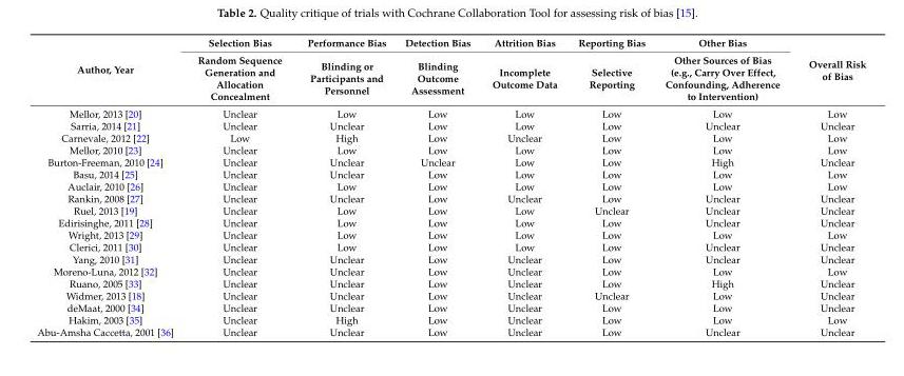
<table><thead><tr><td rowspan="2">Author, Year</td><td rowspan="2">Selection Bias Random Sequence Generation and Allocation Concealment</td><td rowspan="2">Performance Bias Blinding or Participants and Personnel</td><td rowspan="2">Detection Bias Blinding Outcome Assessment</td><td rowspan="2">Attrition Bias Incomplete Outcome Data</td><td rowspan="2">Reporting Bias Selective Reporting</td><td rowspan="2">Other Bias Other Sources of Bias (e.g., Carry Over Effect, Confounding, Adherence to Intervention)</td><td rowspan="2">Overall Risk of Bias</td></tr><tr></tr></thead><tbody><tr><td>Mellor, 2013 [20]</td><td>Unclear</td><td>Low</td><td>Low</td><td>Low</td><td>Low</td><td>Low</td><td>Low</td></tr><tr><td>Sarria, 2014 [21]</td><td>Unclear</td><td>Unclear</td><td>Low</td><td>Low</td><td>Low</td><td>Unclear</td><td>Unclear</td></tr><tr><td>Carnevale, 2012 [22]</td><td>Low</td><td>High</td><td>Low</td><td>Unclear</td><td>Low</td><td>Low</td><td>Low</td></tr><tr><td>Mellor, 2010 [23]</td><td>Unclear</td><td>Low</td><td>Low</td><td>Low</td><td>Low</td><td>Low</td><td>Low</td></tr><tr><td>Burton-Freeman, 2010 [24]</td><td>Unclear</td><td>Unclear</td><td>Unclear</td><td>Low</td><td>Low</td><td>High</td><td>Unclear</td></tr><tr><td>Basu, 2014 [25]</td><td>Unclear</td><td>Unclear</td><td>Low</td><td>Low</td><td>Low</td><td>Low</td><td>Low</td></tr><tr><td>Auclair, 2010 [26]</td><td>Unclear</td><td>Low</td><td>Low</td><td>Low</td><td>Low</td><td>Low</td><td>Low</td></tr><tr><td>Rankin, 2008 [27]</td><td>Unclear</td><td>Unclear</td><td>Low</td><td>Unclear</td><td>Low</td><td>Unclear</td><td>Unclear</td></tr><tr><td>Ruel, 2013 [19]</td><td>Unclear</td><td>Low</td><td>Low</td><td>Low</td><td>Unclear</td><td>Unclear</td><td>Unclear</td></tr><tr><td>Edirisinghe, 2011 [28]</td><td>Unclear</td><td>Low</td><td>Low</td><td>Low</td><td>Low</td><td>Unclear</td><td>Unclear</td></tr><tr><td>Wright, 2013 [29]</td><td>Unclear</td><td>Low</td><td>Low</td><td>Low</td><td>Low</td><td>Low</td><td>Low</td></tr><tr><td>Clerici, 2011 [30]</td><td>Unclear</td><td>Low</td><td>Low</td><td>Low</td><td>Low</td><td>Unclear</td><td>Unclear</td></tr><tr><td>Yang, 2010 [31]</td><td>Unclear</td><td>Unclear</td><td>Low</td><td>Unclear</td><td>Low</td><td>Unclear</td><td>Unclear</td></tr><tr><td>Moreno-Luna, 2012 [32]</td><td>Unclear</td><td>Unclear</td><td>Low</td><td>Unclear</td><td>Low</td><td>Low</td><td>Low</td></tr><tr><td>Ruano, 2005 [33]</td><td>Unclear</td><td>Unclear</td><td>Low</td><td>Unclear</td><td>Low</td><td>High</td><td>Unclear</td></tr><tr><td>Widmer, 2013 [18]</td><td>Unclear</td><td>Unclear</td><td>Low</td><td>Unclear</td><td>Unclear</td><td>Low</td><td>Unclear</td></tr><tr><td>deMaat, 2000 [34]</td><td>Unclear</td><td>Unclear</td><td>Low</td><td>Unclear</td><td>Low</td><td>Low</td><td>Unclear</td></tr><tr><td>Hakim, 2003 [35]</td><td>Unclear</td><td>High</td><td>Low</td><td>Unclear</td><td>Low</td><td>Low</td><td>Low</td></tr><tr><td>Abu-Amsha Caccetta, 2001 [36]</td><td>Unclear</td><td>Unclear</td><td>Low</td><td>Unclear</td><td>Low</td><td>Unclear</td><td>Unclear</td></tr></tbody></table>